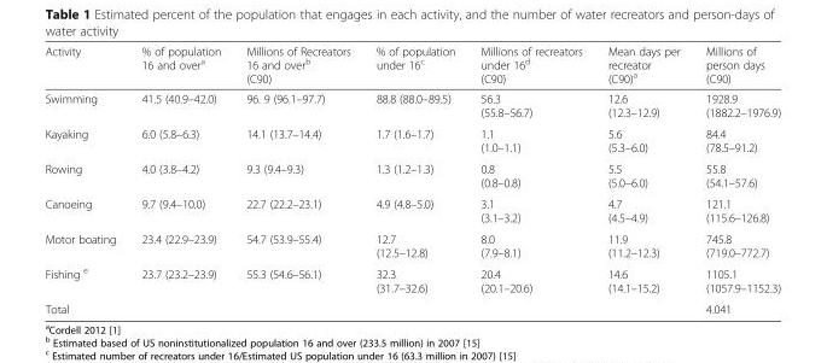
<table><thead><tr><td>Activity</td><td>% of population 16 and over<sup>a</sup></td><td>Millions of Recreators 16 and over<sup>b</sup> (C90)</td><td>% of population under 16<sup>c</sup></td><td>Millions of recreators under 16<sup>d</sup> (C90)</td><td>Mean days per recreator (C90)<sup>a</sup></td><td>Millions of person days (C90)</td></tr></thead><tbody><tr><td>Swimming</td><td>41.5 (40.9–42.0)</td><td>96. 9 (96.1–97.7)</td><td>88.8 (88.0–89.5)</td><td>56.3 (55.8–56.7)</td><td>12.6 (12.3–12.9)</td><td>1928.9 (1882.2–1976.9)</td></tr><tr><td>Kayaking</td><td>6.0 (5.8–6.3)</td><td>14.1 (13.7–14.4)</td><td>1.7 (1.6–1.7)</td><td>1.1 (1.0–1.1)</td><td>5.6 (5.3–6.0)</td><td>84.4 (78.5–91.2)</td></tr><tr><td>Rowing</td><td>4.0 (3.8–4.2)</td><td>9.3 (9.4–9.3)</td><td>1.3 (1.2–1.3)</td><td>0.8 (0.8–0.8)</td><td>5.5 (5.0–6.0)</td><td>55.8 (54.1–57.6)</td></tr><tr><td>Canoeing</td><td>9.7 (9.4–10.0)</td><td>22.7 (22.2–23.1)</td><td>4.9 (4.8–5.0)</td><td>3.1 (3.1–3.2)</td><td>4.7 (4.5–4.9)</td><td>121.1 (115.6–126.8)</td></tr><tr><td>Motor boating</td><td>23.4 (22.9–23.9)</td><td>54.7 (53.9–55.4)</td><td>12.7 (12.5–12.8)</td><td>8.0 (7.9–8.1)</td><td>11.9 (11.2–12.3)</td><td>745.8 (719.0–772.7)</td></tr><tr><td>Fishing <sup>e</sup></td><td>23.7 (23.2–23.9)</td><td>55.3 (54.6–56.1)</td><td>32.3 (31.7–32.6)</td><td>20.4 (20.1–20.6)</td><td>14.6 (14.1–15.2)</td><td>1105.1 (1057.9–1152.3)</td></tr><tr><td>Total</td><td></td><td></td><td></td><td></td><td></td><td>4.041</td></tr></tbody></table>